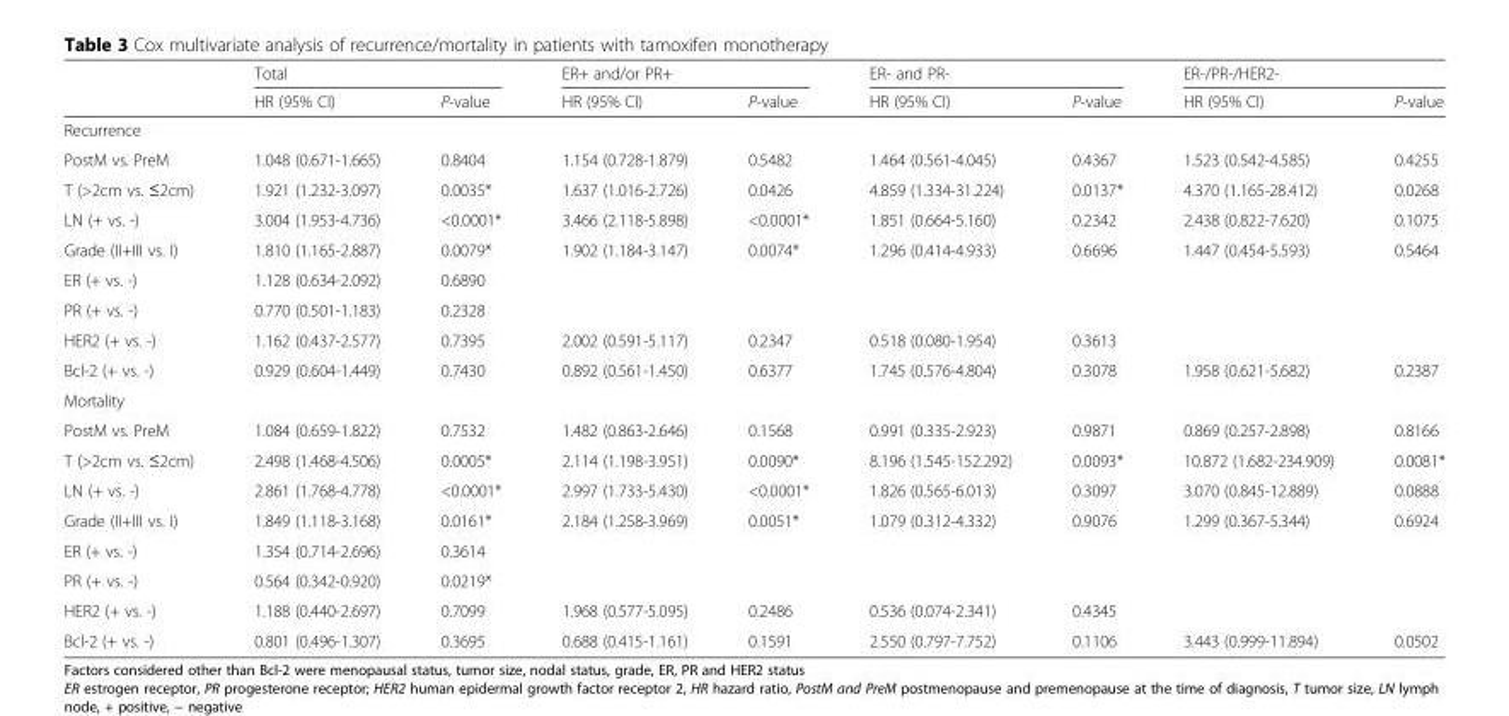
<table><thead><tr><td rowspan="2"></td><td colspan="2">Total</td><td colspan="2">ER+ and/or PR+</td><td colspan="2">ER- and PR-</td><td colspan="2">ER-/PR-/HER2-</td></tr><tr><td>HR (95% CI)</td><td>P-value</td><td>HR (95% CI)</td><td>P-value</td><td>HR (95% CI)</td><td>P-value</td><td>HR (95% CI)</td><td>P-value</td></tr></thead><tbody><tr><td colspan="9">Recurrence</td></tr><tr><td>PostM vs. PreM</td><td>1.048 (0.671-1.665)</td><td>0.8404</td><td>1.154 (0.728-1.879)</td><td>0.5482</td><td>1.464 (0.561-4.045)</td><td>0.4367</td><td>1.523 (0.542-4.585)</td><td>0.4255</td></tr><tr><td>T (&gt;2cm vs. ≤2cm)</td><td>1.921 (1.232-3.097)</td><td>0.0035*</td><td>1.637 (1.016-2.726)</td><td>0.0426</td><td>4.859 (1.334-31.224)</td><td>0.0137*</td><td>4.370 (1.165-28.412)</td><td>0.0268</td></tr><tr><td>LN (+ vs. -)</td><td>3.004 (1.953-4.736)</td><td>&lt;0.0001*</td><td>3.466 (2.118-5.898)</td><td>&lt;0.0001*</td><td>1.851 (0.664-5.160)</td><td>0.2342</td><td>2.438 (0.822-7.620)</td><td>0.1075</td></tr><tr><td>Grade (II+III vs. I)</td><td>1.810 (1.165-2.887)</td><td>0.0079*</td><td>1.902 (1.184-3.147)</td><td>0.0074*</td><td>1.296 (0.414-4.933)</td><td>0.6696</td><td>1.447 (0.454-5.593)</td><td>0.5464</td></tr><tr><td>ER (+ vs. -)</td><td>1.128 (0.634-2.092)</td><td>0.6890</td><td></td><td></td><td></td><td></td><td></td><td></td></tr><tr><td>PR (+ vs. -)</td><td>0.770 (0.501-1.183)</td><td>0.2328</td><td></td><td></td><td></td><td></td><td></td><td></td></tr><tr><td>HER2 (+ vs. -)</td><td>1.162 (0.437-2.577)</td><td>0.7395</td><td>2.002 (0.591-5.117)</td><td>0.2347</td><td>0.518 (0.080-1.954)</td><td>0.3613</td><td></td><td></td></tr><tr><td>Bcl-2 (+ vs. -)</td><td>0.929 (0.604-1.449)</td><td>0.7430</td><td>0.892 (0.561-1.450)</td><td>0.6377</td><td>1.745 (0.576-4.804)</td><td>0.3078</td><td>1.958 (0.621-5.682)</td><td>0.2387</td></tr><tr><td colspan="9">Mortality</td></tr><tr><td>PostM vs. PreM</td><td>1.084 (0.659-1.822)</td><td>0.7532</td><td>1.482 (0.863-2.646)</td><td>0.1568</td><td>0.991 (0.335-2.923)</td><td>0.9871</td><td>0.869 (0.257-2.898)</td><td>0.8166</td></tr><tr><td>T (&gt;2cm vs. ≤2cm)</td><td>2.498 (1.468-4.506)</td><td>0.0005*</td><td>2.114 (1.198-3.951)</td><td>0.0090*</td><td>8.196 (1.545-152.292)</td><td>0.0093*</td><td>10.872 (1.682-234.909)</td><td>0.0081*</td></tr><tr><td>LN (+ vs. -)</td><td>2.861 (1.768-4.778)</td><td>&lt;0.0001*</td><td>2.997 (1.733-5.430)</td><td>&lt;0.0001*</td><td>1.826 (0.565-6.013)</td><td>0.3097</td><td>3.070 (0.845-12.889)</td><td>0.0888</td></tr><tr><td>Grade (II+III vs. I)</td><td>1.849 (1.118-3.168)</td><td>0.0161*</td><td>2.184 (1.258-3.969)</td><td>0.0051*</td><td>1.079 (0.312-4.332)</td><td>0.9076</td><td>1.299 (0.367-5.344)</td><td>0.6924</td></tr><tr><td>ER (+ vs. -)</td><td>1.354 (0.714-2.696)</td><td>0.3614</td><td></td><td></td><td></td><td></td><td></td><td></td></tr><tr><td>PR (+ vs. -)</td><td>0.564 (0.342-0.920)</td><td>0.0219*</td><td></td><td></td><td></td><td></td><td></td><td></td></tr><tr><td>HER2 (+ vs. -)</td><td>1.188 (0.440-2.697)</td><td>0.7099</td><td>1.968 (0.577-5.095)</td><td>0.2486</td><td>0.536 (0.074-2.341)</td><td>0.4345</td><td></td><td></td></tr><tr><td>Bcl-2 (+ vs. -)</td><td>0.801 (0.496-1.307)</td><td>0.3695</td><td>0.688 (0.415-1.161)</td><td>0.1591</td><td>2.550 (0.797-7.752)</td><td>0.1106</td><td>3.443 (0.999-11.894)</td><td>0.0502</td></tr></tbody></table>